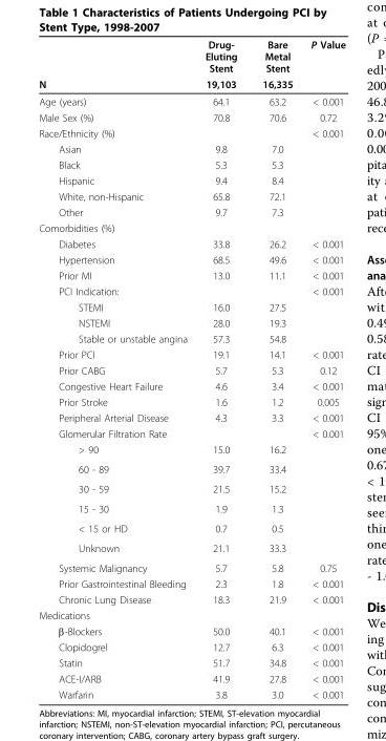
<table><thead><tr><td rowspan="2">N</td><td rowspan="2">Drug- Eluting Stent 19,103</td><td rowspan="2">Bare Metal Stent 16,335</td><td rowspan="2">P Value</td></tr><tr></tr></thead><tbody><tr><td>Age (years)</td><td>64.1</td><td>63.2</td><td>&lt; 0.001</td></tr><tr><td>Male Sex (%)</td><td>70.8</td><td>70.6</td><td>0.72</td></tr><tr><td>Race/Ethnicity (%)</td><td></td><td></td><td>&lt; 0.001</td></tr><tr><td>Asian</td><td>9.8</td><td>7.0</td><td></td></tr><tr><td>Black</td><td>5.3</td><td>5.3</td><td></td></tr><tr><td>Hispanic</td><td>9.4</td><td>8.4</td><td></td></tr><tr><td>White, non-Hispanic</td><td>65.8</td><td>72.1</td><td></td></tr><tr><td>Other</td><td>9.7</td><td>7.3</td><td></td></tr><tr><td colspan="4">Comorbidities (%)</td></tr><tr><td>Diabetes</td><td>33.8</td><td>26.2</td><td>&lt; 0.001</td></tr><tr><td>Hypertension</td><td>68.5</td><td>49.6</td><td>&lt; 0.001</td></tr><tr><td>Prior MI</td><td>13.0</td><td>11.1</td><td>&lt; 0.001</td></tr><tr><td>PCI Indication:</td><td></td><td></td><td>&lt; 0.001</td></tr><tr><td>STEMI</td><td>16.0</td><td>27.5</td><td></td></tr><tr><td>NSTEMI</td><td>28.0</td><td>19.3</td><td></td></tr><tr><td>Stable or unstable angina</td><td>57.3</td><td>54.8</td><td></td></tr><tr><td>Prior PCI</td><td>19.1</td><td>14.1</td><td>&lt; 0.001</td></tr><tr><td>Prior CABG</td><td>5.7</td><td>5.3</td><td>0.12</td></tr><tr><td>Congestive Heart Failure</td><td>4.6</td><td>3.4</td><td>&lt; 0.001</td></tr><tr><td>Prior Stroke</td><td>1.6</td><td>1.2</td><td>0.005</td></tr><tr><td>Peripheral Arterial Disease</td><td>4.3</td><td>3.3</td><td>&lt; 0.001</td></tr><tr><td>Glomerular Filtration Rate</td><td></td><td></td><td>&lt; 0.001</td></tr><tr><td>&gt; 90</td><td>15.0</td><td>16.2</td><td></td></tr><tr><td>60 - 89</td><td>39.7</td><td>33.4</td><td></td></tr><tr><td>30 - 59</td><td>21.5</td><td>15.2</td><td></td></tr><tr><td>15 - 30</td><td>1.9</td><td>1.3</td><td></td></tr><tr><td>&lt; 15 or HD</td><td>0.7</td><td>0.5</td><td></td></tr><tr><td>Unknown</td><td>21.1</td><td>33.3</td><td></td></tr><tr><td>Systemic Malignancy</td><td>5.7</td><td>5.8</td><td>0.75</td></tr><tr><td>Prior Gastrointestinal Bleeding</td><td>2.3</td><td>1.8</td><td>&lt; 0.001</td></tr><tr><td>Chronic Lung Disease</td><td>18.3</td><td>21.9</td><td>&lt; 0.001</td></tr><tr><td colspan="4">Medications</td></tr><tr><td>β-Blockers</td><td>50.0</td><td>40.1</td><td>&lt; 0.001</td></tr><tr><td>Clopidogrel</td><td>12.7</td><td>6.3</td><td>&lt; 0.001</td></tr><tr><td>Statin</td><td>51.7</td><td>34.8</td><td>&lt; 0.001</td></tr><tr><td>ACE-I/ARB</td><td>41.9</td><td>27.8</td><td>&lt; 0.001</td></tr><tr><td>Warfarin</td><td>3.8</td><td>3.0</td><td>&lt; 0.001</td></tr></tbody></table>